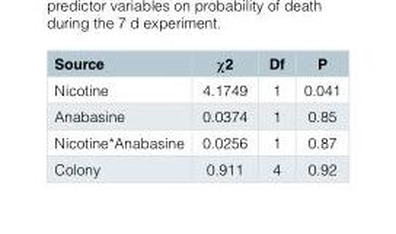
<table><thead><tr><td>Source</td><td>χ2</td><td>Df</td><td>P</td></tr></thead><tbody><tr><td>Nicotine</td><td>4.1749</td><td>1</td><td>0.041</td></tr><tr><td>Anabasine</td><td>0.0374</td><td>1</td><td>0.85</td></tr><tr><td>Nicotine*Anabasine</td><td>0.0256</td><td>1</td><td>0.87</td></tr><tr><td>Colony</td><td>0.911</td><td>4</td><td>0.92</td></tr></tbody></table>